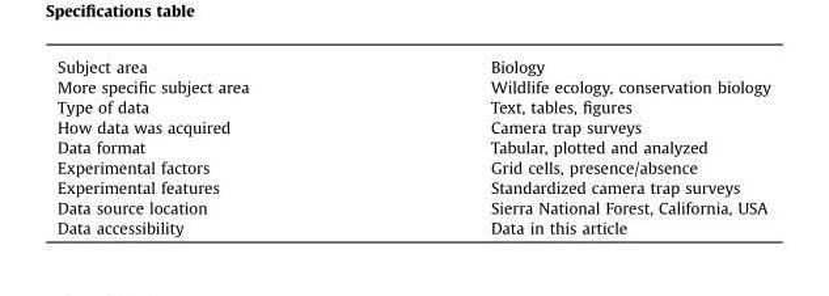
<table><tbody><tr><td>Subject area</td><td>Biology</td></tr><tr><td>More specific subject area</td><td>Wildlife ecology, conservation biology</td></tr><tr><td>Type of data</td><td>Text, tables, figures</td></tr><tr><td>How data was acquired</td><td>Camera trap surveys</td></tr><tr><td>Data format</td><td>Tabular, plotted and analyzed</td></tr><tr><td>Experimental factors</td><td>Grid cells, presence/absence</td></tr><tr><td>Experimental features</td><td>Standardized camera trap surveys</td></tr><tr><td>Data source location</td><td>Sierra National Forest, California, USA</td></tr><tr><td>Data accessibility</td><td>Data in this article</td></tr></tbody></table>